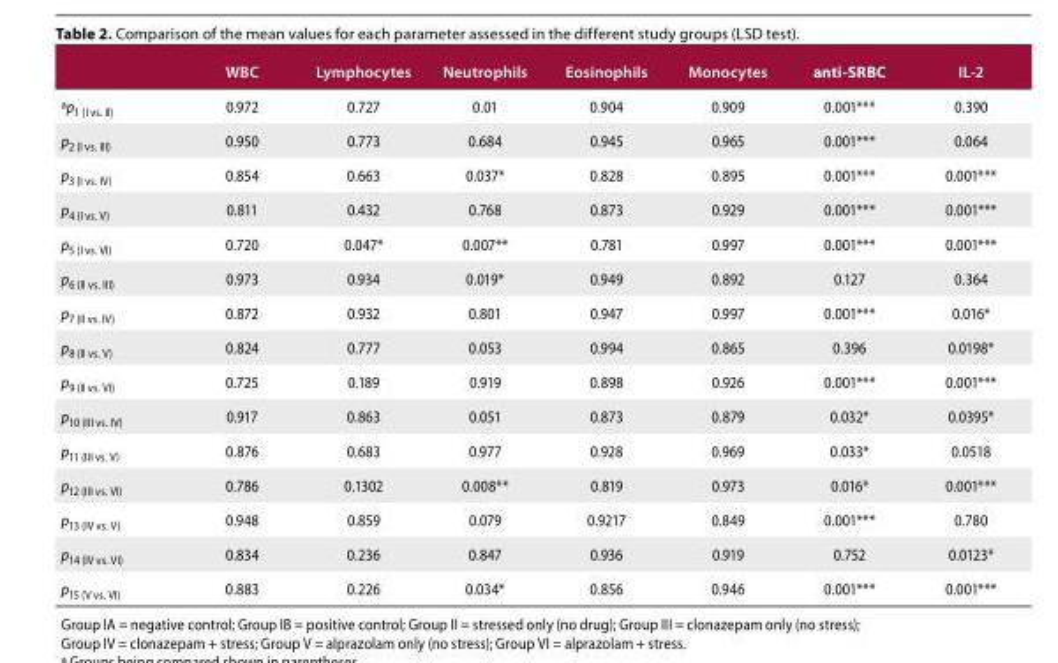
<table><thead><tr><td></td><td>WBC</td><td>Lymphocytes</td><td>Neutrophils</td><td>Eosinophils</td><td>Monocytes</td><td>anti-SRBC</td><td>IL-2</td></tr></thead><tbody><tr><td>ap<sub>1 (I vs. II)</sub></td><td>0.972</td><td>0.727</td><td>0.01</td><td>0.904</td><td>0.909</td><td>0.001***</td><td>0.390</td></tr><tr><td>p<sub>2 (I vs. III)</sub></td><td>0.950</td><td>0.773</td><td>0.684</td><td>0.945</td><td>0.965</td><td>0.001***</td><td>0.064</td></tr><tr><td>p<sub>3 (I vs. IV)</sub></td><td>0.854</td><td>0.663</td><td>0.037*</td><td>0.828</td><td>0.895</td><td>0.001***</td><td>0.001***</td></tr><tr><td>p<sub>4 (I vs. V)</sub></td><td>0.811</td><td>0.432</td><td>0.768</td><td>0.873</td><td>0.929</td><td>0.001***</td><td>0.001***</td></tr><tr><td>p<sub>5 (I vs. VI)</sub></td><td>0.720</td><td>0.047*</td><td>0.007**</td><td>0.781</td><td>0.997</td><td>0.001***</td><td>0.001***</td></tr><tr><td>p<sub>6 (II vs. III)</sub></td><td>0.973</td><td>0.934</td><td>0.019*</td><td>0.949</td><td>0.892</td><td>0.127</td><td>0.364</td></tr><tr><td>p<sub>7 (II vs. IV)</sub></td><td>0.872</td><td>0.932</td><td>0.801</td><td>0.947</td><td>0.997</td><td>0.001***</td><td>0.016*</td></tr><tr><td>p<sub>8 (II vs. V)</sub></td><td>0.824</td><td>0.777</td><td>0.053</td><td>0.994</td><td>0.865</td><td>0.396</td><td>0.0198*</td></tr><tr><td>p<sub>9 (II vs. VI)</sub></td><td>0.725</td><td>0.189</td><td>0.919</td><td>0.898</td><td>0.926</td><td>0.001***</td><td>0.001***</td></tr><tr><td>p<sub>10 (III vs. IV)</sub></td><td>0.917</td><td>0.863</td><td>0.051</td><td>0.873</td><td>0.879</td><td>0.032*</td><td>0.0395*</td></tr><tr><td>p<sub>11 (III vs. V)</sub></td><td>0.876</td><td>0.683</td><td>0.977</td><td>0.928</td><td>0.969</td><td>0.033*</td><td>0.0518</td></tr><tr><td>p<sub>12 (III vs. VI)</sub></td><td>0.786</td><td>0.1302</td><td>0.008**</td><td>0.819</td><td>0.973</td><td>0.016*</td><td>0.001***</td></tr><tr><td>p<sub>13 (IV vs. V)</sub></td><td>0.948</td><td>0.859</td><td>0.079</td><td>0.9217</td><td>0.849</td><td>0.001***</td><td>0.780</td></tr><tr><td>p<sub>14 (IV vs. VI)</sub></td><td>0.834</td><td>0.236</td><td>0.847</td><td>0.936</td><td>0.919</td><td>0.752</td><td>0.0123*</td></tr><tr><td>p<sub>15 (V vs. VI)</sub></td><td>0.883</td><td>0.226</td><td>0.034*</td><td>0.856</td><td>0.946</td><td>0.001***</td><td>0.001***</td></tr></tbody></table>